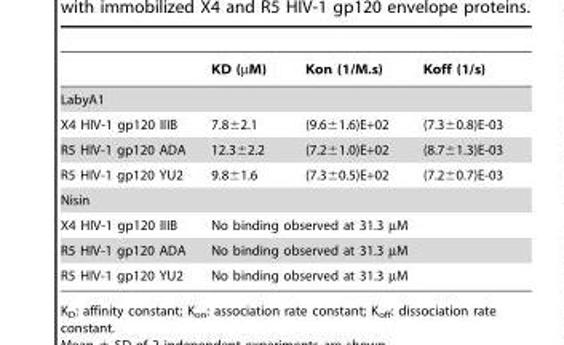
<table><thead><tr><td></td><td>KD (µM)</td><td>Kon (1/M.s)</td><td>Koff (1/s)</td></tr></thead><tbody><tr><td colspan="4">LabyA1</td></tr><tr><td>X4 HIV-1 gp120 IIIB</td><td>7.8±2.1</td><td>(9.6±1.6)E+02</td><td>(7.3±0.8)E-03</td></tr><tr><td>R5 HIV-1 gp120 ADA</td><td>12.3±2.2</td><td>(7.2±1.0)E+02</td><td>(8.7±1.3)E-03</td></tr><tr><td>R5 HIV-1 gp120 YU2</td><td>9.8±1.6</td><td>(7.3±0.5)E+02</td><td>(7.2±0.7)E-03</td></tr><tr><td colspan="4">Nisin</td></tr><tr><td>X4 HIV-1 gp120 IIIB</td><td colspan="3">No binding observed at 31.3 µM</td></tr><tr><td>R5 HIV-1 gp120 ADA</td><td colspan="3">No binding observed at 31.3 µM</td></tr><tr><td>R5 HIV-1 gp120 YU2</td><td colspan="3">No binding observed at 31.3 µM</td></tr></tbody></table>